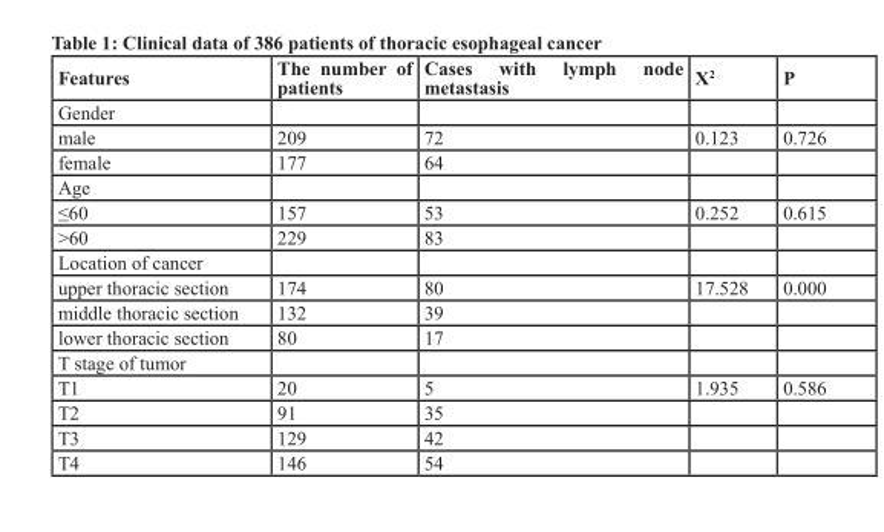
<table><thead><tr><td>Features</td><td>the number of patients</td><td>cases with lymph node metastasis</td><td>X<sup>2</sup></td><td>P</td></tr></thead><tbody><tr><td colspan="5">Gender</td></tr><tr><td>male</td><td>209</td><td>72</td><td>0.123</td><td>0.726</td></tr><tr><td>female</td><td>177</td><td>64</td><td></td><td></td></tr><tr><td colspan="5">Age</td></tr><tr><td>≤60</td><td>157</td><td>53</td><td>0.252</td><td>0.615</td></tr><tr><td>&gt;60</td><td>229</td><td>83</td><td></td><td></td></tr><tr><td colspan="5">Location of cancer</td></tr><tr><td>upper thoracic section</td><td>174</td><td>80</td><td>17.528</td><td>0.000</td></tr><tr><td>middle thoracic section</td><td>132</td><td>39</td><td></td><td></td></tr><tr><td>lower thoracic section</td><td>80</td><td>17</td><td></td><td></td></tr><tr><td colspan="5">T stage of tumor</td></tr><tr><td>T1</td><td>20</td><td>5</td><td>1.935</td><td>0.586</td></tr><tr><td>T2</td><td>91</td><td>35</td><td></td><td></td></tr><tr><td>T3</td><td>129</td><td>42</td><td></td><td></td></tr><tr><td>T4</td><td>146</td><td>54</td><td></td><td></td></tr></tbody></table>